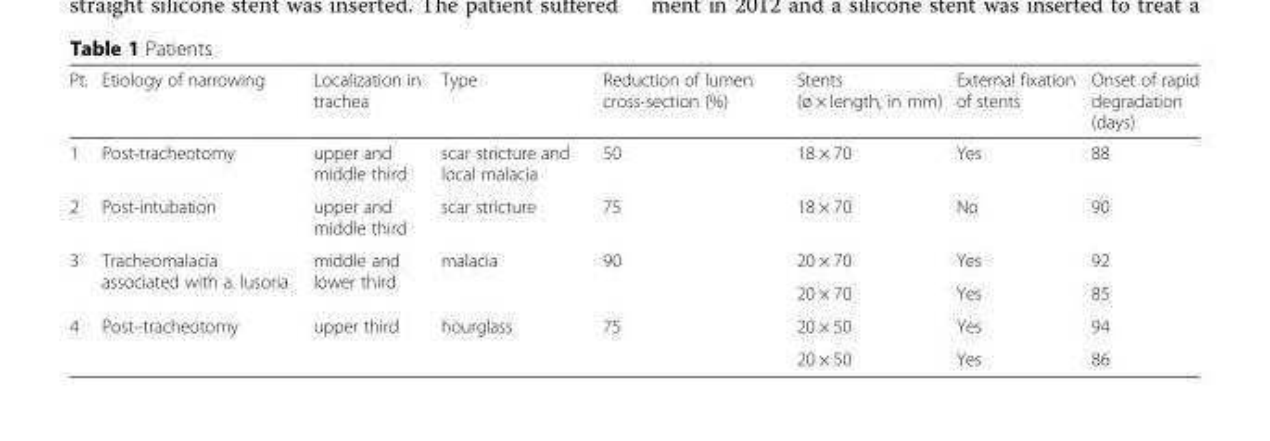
<table><thead><tr><td>Pt.</td><td>Etiology of narrowing</td><td>Localization in trachea</td><td>Type</td><td>Reduction of lumen cross-section (%)</td><td>Stents (ø × length, in mm)</td><td>External fixation of stents</td><td>Onset of rapid degradation (days)</td></tr></thead><tbody><tr><td>1</td><td>Post-tracheotomy</td><td>upper and middle third</td><td>scar stricture and local malacia</td><td>50</td><td>18 × 70</td><td>Yes</td><td>88</td></tr><tr><td>2</td><td>Post-intubation</td><td>upper and middle third</td><td>scar stricture</td><td>75</td><td>18 × 70</td><td>No</td><td>90</td></tr><tr><td rowspan="2">3</td><td rowspan="2">Tracheomalacia associated with a. lusoria</td><td rowspan="2">middle and lower third</td><td rowspan="2">malacia</td><td rowspan="2">90</td><td>20 × 70</td><td>Yes</td><td>92</td></tr><tr><td>20 × 70</td><td>Yes</td><td>85</td></tr><tr><td rowspan="2">4</td><td rowspan="2">Post–tracheotomy</td><td rowspan="2">upper third</td><td rowspan="2">hourglass</td><td rowspan="2">75</td><td>20 × 50</td><td>Yes</td><td>94</td></tr><tr><td>20 × 50</td><td>Yes</td><td>86</td></tr></tbody></table>